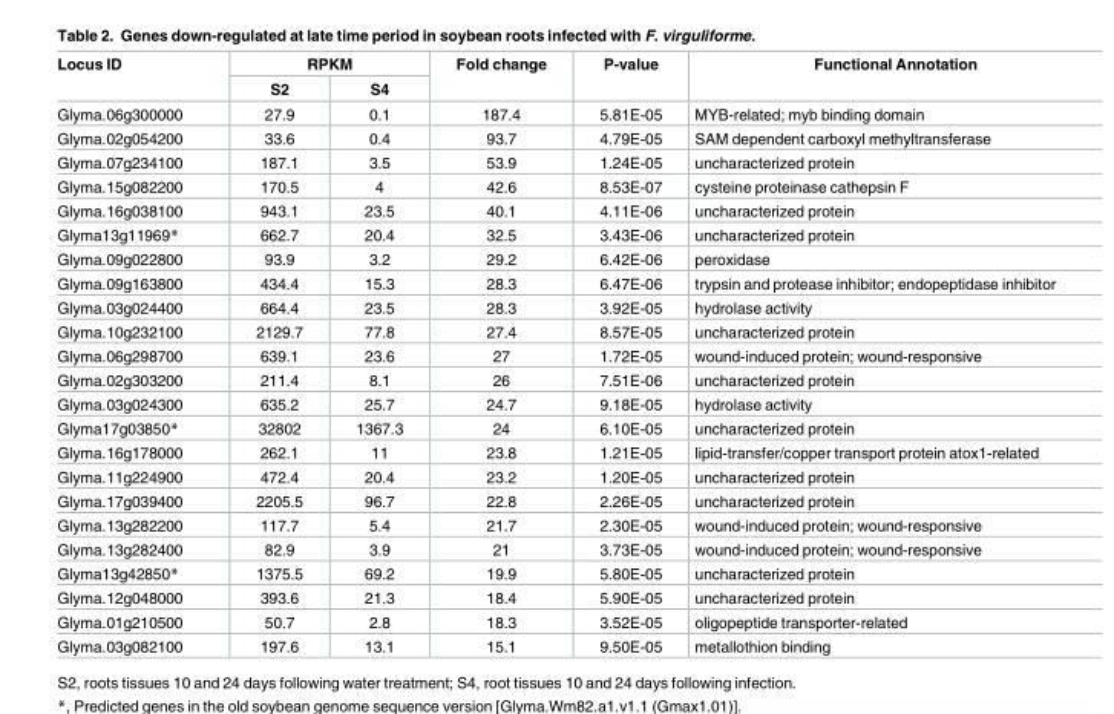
<table><thead><tr><td rowspan="2">Locus ID</td><td colspan="2">RPKM</td><td rowspan="2">Fold change</td><td rowspan="2">P-value</td><td rowspan="2">Functional Annotation</td></tr><tr><td>S2</td><td>S4</td></tr></thead><tbody><tr><td>Glyma.06g300000</td><td>27.9</td><td>0.1</td><td>187.4</td><td>5.81E-05</td><td>MYB-related; myb binding domain</td></tr><tr><td>Glyma.02g054200</td><td>33.6</td><td>0.4</td><td>93.7</td><td>4.79E-05</td><td>SAM dependent carboxyl methyltransferase</td></tr><tr><td>Glyma.07g234100</td><td>187.1</td><td>3.5</td><td>53.9</td><td>1.24E-05</td><td>uncharacterized protein</td></tr><tr><td>Glyma.15g082200</td><td>170.5</td><td>4</td><td>42.6</td><td>8.53E-07</td><td>cysteine proteinase cathepsin F</td></tr><tr><td>Glyma.16g038100</td><td>943.1</td><td>23.5</td><td>40.1</td><td>4.11E-06</td><td>uncharacterized protein</td></tr><tr><td>Glyma13g11969*</td><td>662.7</td><td>20.4</td><td>32.5</td><td>3.43E-06</td><td>uncharacterized protein</td></tr><tr><td>Glyma.09g022800</td><td>93.9</td><td>3.2</td><td>29.2</td><td>6.42E-06</td><td>peroxidase</td></tr><tr><td>Glyma.09g163800</td><td>434.4</td><td>15.3</td><td>28.3</td><td>6.47E-06</td><td>trypsin and protease inhibitor; endopeptidase inhibitor</td></tr><tr><td>Glyma.03g024400</td><td>664.4</td><td>23.5</td><td>28.3</td><td>3.92E-05</td><td>hydrolase activity</td></tr><tr><td>Glyma.10g232100</td><td>2129.7</td><td>77.8</td><td>27.4</td><td>8.57E-05</td><td>uncharacterized protein</td></tr><tr><td>Glyma.06g298700</td><td>639.1</td><td>23.6</td><td>27</td><td>1.72E-05</td><td>wound-induced protein; wound-responsive</td></tr><tr><td>Glyma.02g303200</td><td>211.4</td><td>8.1</td><td>26</td><td>7.51E-06</td><td>uncharacterized protein</td></tr><tr><td>Glyma.03g024300</td><td>635.2</td><td>25.7</td><td>24.7</td><td>9.18E-05</td><td>hydrolase activity</td></tr><tr><td>Glyma17g03850*</td><td>32802</td><td>1367.3</td><td>24</td><td>6.10E-05</td><td>uncharacterized protein</td></tr><tr><td>Glyma.16g178000</td><td>262.1</td><td>11</td><td>23.8</td><td>1.21E-05</td><td>lipid-transfer/copper transport protein atox1-related</td></tr><tr><td>Glyma.11g224900</td><td>472.4</td><td>20.4</td><td>23.2</td><td>1.20E-05</td><td>uncharacterized protein</td></tr><tr><td>Glyma.17g039400</td><td>2205.5</td><td>96.7</td><td>22.8</td><td>2.26E-05</td><td>uncharacterized protein</td></tr><tr><td>Glyma.13g282200</td><td>117.7</td><td>5.4</td><td>21.7</td><td>2.30E-05</td><td>wound-induced protein; wound-responsive</td></tr><tr><td>Glyma.13g282400</td><td>82.9</td><td>3.9</td><td>21</td><td>3.73E-05</td><td>wound-induced protein; wound-responsive</td></tr><tr><td>Glyma13g42850*</td><td>1375.5</td><td>69.2</td><td>19.9</td><td>5.80E-05</td><td>uncharacterized protein</td></tr><tr><td>Glyma.12g048000</td><td>393.6</td><td>21.3</td><td>18.4</td><td>5.90E-05</td><td>uncharacterized protein</td></tr><tr><td>Glyma.01g210500</td><td>50.7</td><td>2.8</td><td>18.3</td><td>3.52E-05</td><td>oligopeptide transporter-related</td></tr><tr><td>Glyma.03g082100</td><td>197.6</td><td>13.1</td><td>15.1</td><td>9.50E-05</td><td>metallothion binding</td></tr></tbody></table>